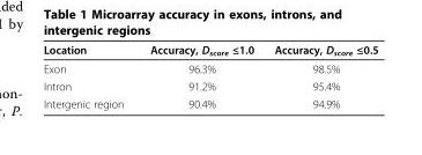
<table><thead><tr><td>Location</td><td>Accuracy, D<sub>score</sub> ≤1.0</td><td>Accuracy, D<sub>score</sub> ≤0.5</td></tr></thead><tbody><tr><td>Exon</td><td>96.3%</td><td>98.5%</td></tr><tr><td>Intron</td><td>91.2%</td><td>95.4%</td></tr><tr><td>Intergenic region</td><td>90.4%</td><td>94.9%</td></tr></tbody></table>